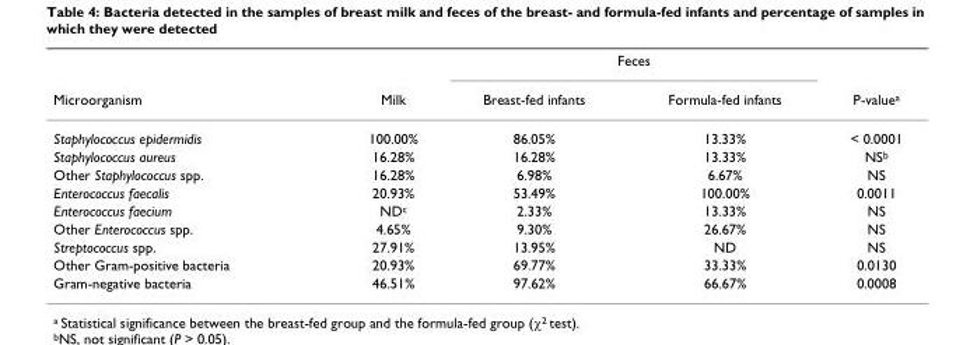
<table><thead><tr><td rowspan="2">Microorganism</td><td rowspan="2">Milk</td><td colspan="2">Feces</td><td rowspan="2">P-value<sup>a</sup></td></tr><tr><td>Breast-fed infants</td><td>Formula-fed infants</td></tr></thead><tbody><tr><td>Staphylococcus epidermidis</td><td>100.00%</td><td>86.05%</td><td>13.33%</td><td>&lt; 0.0001</td></tr><tr><td>Staphylococcus aureus</td><td>16.28%</td><td>16.28%</td><td>13.33%</td><td>NS<sup>b</sup></td></tr><tr><td>Other Staphylococcus spp.</td><td>16.28%</td><td>6.98%</td><td>6.67%</td><td>NS</td></tr><tr><td>Enterococcus faecalis</td><td>20.93%</td><td>53.49%</td><td>100.00%</td><td>0.0011</td></tr><tr><td>Enterococcus faecium</td><td>ND<sup>c</sup></td><td>2.33%</td><td>13.33%</td><td>NS</td></tr><tr><td>Other Enterococcus spp.</td><td>4.65%</td><td>9.30%</td><td>26.67%</td><td>NS</td></tr><tr><td>Streptococcus spp.</td><td>27.91%</td><td>13.95%</td><td>ND</td><td>NS</td></tr><tr><td>Other Gram-positive bacteria</td><td>20.93%</td><td>69.77%</td><td>33.33%</td><td>0.0130</td></tr><tr><td>Gram-negative bacteria</td><td>46.51%</td><td>97.62%</td><td>66.67%</td><td>0.0008</td></tr></tbody></table>